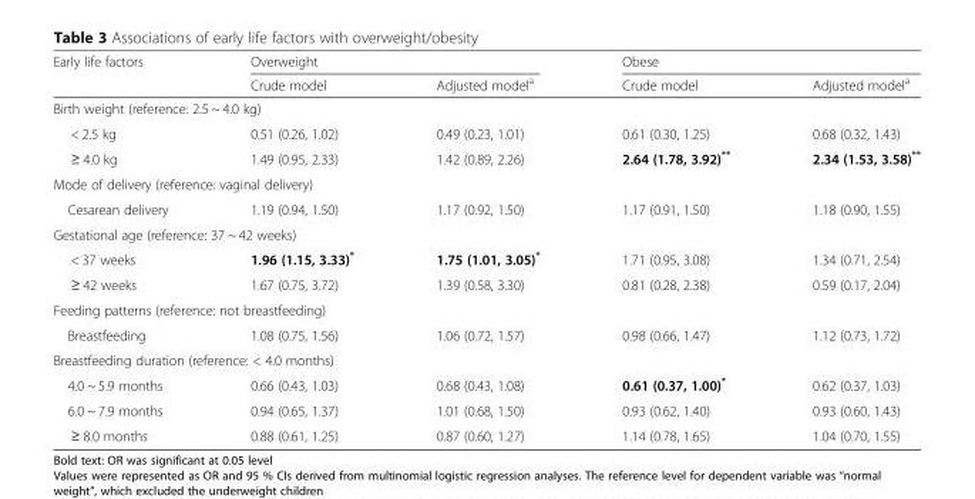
<table><thead><tr><td rowspan="2">Early life factors</td><td colspan="2">Overweight</td><td colspan="2">Obese</td></tr><tr><td>Crude model</td><td>Adjusted model<sup>a</sup></td><td>Crude model</td><td>Adjusted model<sup>a</sup></td></tr></thead><tbody><tr><td colspan="5">Birth weight (reference: 2.5 ~ 4.0 kg)</td></tr><tr><td>&lt; 2.5 kg</td><td>0.51 (0.26, 1.02)</td><td>0.49 (0.23, 1.01)</td><td>0.61 (0.30, 1.25)</td><td>0.68 (0.32, 1.43)</td></tr><tr><td>≥ 4.0 kg</td><td>1.49 (0.95, 2.33)</td><td>1.42 (0.89, 2.26)</td><td>2.64 (1.78, 3.92)**</td><td>2.34 (1.53, 3.58)**</td></tr><tr><td colspan="5">Mode of delivery (reference: vaginal delivery)</td></tr><tr><td>Cesarean delivery</td><td>1.19 (0.94, 1.50)</td><td>1.17 (0.92, 1.50)</td><td>1.17 (0.91, 1.50)</td><td>1.18 (0.90, 1.55)</td></tr><tr><td colspan="5">Gestational age (reference: 37 ~ 42 weeks)</td></tr><tr><td>&lt; 37 weeks</td><td>1.96 (1.15, 3.33)*</td><td>1.75 (1.01, 3.05)*</td><td>1.71 (0.95, 3.08)</td><td>1.34 (0.71, 2.54)</td></tr><tr><td>≥ 42 weeks</td><td>1.67 (0.75, 3.72)</td><td>1.39 (0.58, 3.30)</td><td>0.81 (0.28, 2.38)</td><td>0.59 (0.17, 2.04)</td></tr><tr><td colspan="5">Feeding patterns (reference: not breastfeeding)</td></tr><tr><td>Breastfeeding</td><td>1.08 (0.75, 1.56)</td><td>1.06 (0.72, 1.57)</td><td>0.98 (0.66, 1.47)</td><td>1.12 (0.73, 1.72)</td></tr><tr><td colspan="5">Breastfeeding duration (reference: &lt; 4.0 months)</td></tr><tr><td>4.0 ~ 5.9 months</td><td>0.66 (0.43, 1.03)</td><td>0.68 (0.43, 1.08)</td><td>0.61 (0.37, 1.00)*</td><td>0.62 (0.37, 1.03)</td></tr><tr><td>6.0 ~ 7.9 months</td><td>0.94 (0.65, 1.37)</td><td>1.01 (0.68, 1.50)</td><td>0.93 (0.62, 1.40)</td><td>0.93 (0.60, 1.43)</td></tr><tr><td>≥ 8.0 months</td><td>0.88 (0.61, 1.25)</td><td>0.87 (0.60, 1.27)</td><td>1.14 (0.78, 1.65)</td><td>1.04 (0.70, 1.55)</td></tr></tbody></table>